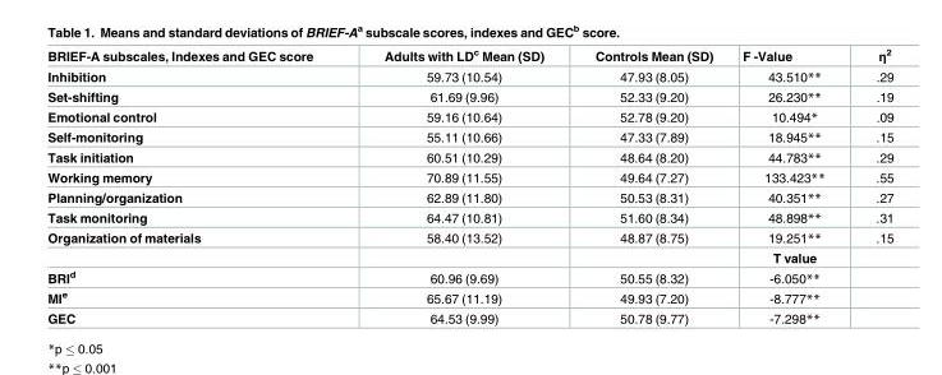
<table><thead><tr><td>BRIEF-A subscales, Indexes and GEC score</td><td>Adults with LD<sup>c</sup> Mean (SD)</td><td>Controls Mean (SD)</td><td>F -Value</td><td>η<sup>2</sup></td></tr></thead><tbody><tr><td>Inhibition</td><td>59.73 (10.54)</td><td>47.93 (8.05)</td><td>43.510**</td><td>.29</td></tr><tr><td>Set-shifting</td><td>61.69 (9.96)</td><td>52.33 (9.20)</td><td>26.230**</td><td>.19</td></tr><tr><td>Emotional control</td><td>59.16 (10.64)</td><td>52.78 (9.20)</td><td>10.494*</td><td>.09</td></tr><tr><td>Self-monitoring</td><td>55.11 (10.66)</td><td>47.33 (7.89)</td><td>18.945**</td><td>.15</td></tr><tr><td>Task initiation</td><td>60.51 (10.29)</td><td>48.64 (8.20)</td><td>44.783**</td><td>.29</td></tr><tr><td>Working memory</td><td>70.89 (11.55)</td><td>49.64 (7.27)</td><td>133.423**</td><td>.55</td></tr><tr><td>Planning/organization</td><td>62.89 (11.80)</td><td>50.53 (8.31)</td><td>40.351**</td><td>.27</td></tr><tr><td>Task monitoring</td><td>64.47 (10.81)</td><td>51.60 (8.34)</td><td>48.898**</td><td>.31</td></tr><tr><td rowspan="2">Organization of materials</td><td>58.40 (13.52)</td><td>48.87 (8.75)</td><td>19.251**</td><td>.15</td></tr><tr><td></td><td></td><td>T value</td><td></td></tr><tr><td>BRI<sup>d</sup></td><td>60.96 (9.69)</td><td>50.55 (8.32)</td><td>-6.050**</td><td></td></tr><tr><td>MI<sup>e</sup></td><td>65.67 (11.19)</td><td>49.93 (7.20)</td><td>-8.777**</td><td></td></tr><tr><td>GEC</td><td>64.53 (9.99)</td><td>50.78 (9.77)</td><td>-7.298**</td><td></td></tr></tbody></table>